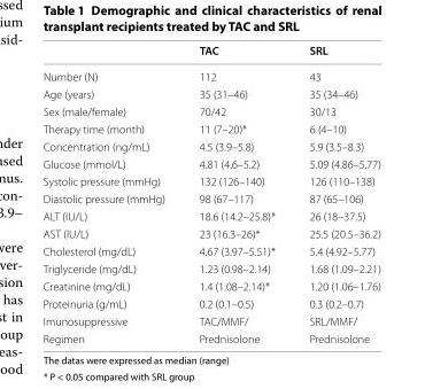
<table><thead><tr><td></td><td>TAC</td><td>SRL</td></tr></thead><tbody><tr><td>Number (N)</td><td>112</td><td>43</td></tr><tr><td>Age (years)</td><td>35 (31–46)</td><td>35 (34–46)</td></tr><tr><td>Sex (male/female)</td><td>70/42</td><td>30/13</td></tr><tr><td>Therapy time (month)</td><td>11 (7–20)*</td><td>6 (4–10)</td></tr><tr><td>Concentration (ng/mL)</td><td>4.5 (3.9–5.8)</td><td>5.9 (3.5–8.3)</td></tr><tr><td>Glucose (mmol/L)</td><td>4.81 (4.6–5.2)</td><td>5.09 (4.86–5.77)</td></tr><tr><td>Systolic pressure (mmHg)</td><td>132 (126–140)</td><td>126 (110–138)</td></tr><tr><td>Diastolic pressure (mmHg)</td><td>98 (67–117)</td><td>87 (65–106)</td></tr><tr><td>ALT (IU/L)</td><td>18.6 (14.2–25.8)*</td><td>26 (18–37.5)</td></tr><tr><td>AST (IU/L)</td><td>23 (16.3–26)*</td><td>25.5 (20.5–36.2)</td></tr><tr><td>Cholesterol (mg/dL)</td><td>4.67 (3.97–5.51)*</td><td>5.4 (4.92–5.77)</td></tr><tr><td>Triglyceride (mg/dL)</td><td>1.23 (0.98–2.14)</td><td>1.68 (1.09–2.21)</td></tr><tr><td>Creatinine (mg/dL)</td><td>1.4 (1.08–2.14)*</td><td>1.20 (1.06–1.76)</td></tr><tr><td>Proteinuria (g/mL)</td><td>0.2 (0.1–0.5)</td><td>0.3 (0.2–0.7)</td></tr><tr><td>Imunosuppressive</td><td>TAC/MMF/</td><td>SRL/MMF/</td></tr><tr><td>Regimen</td><td>Prednisolone</td><td>Prednisolone</td></tr></tbody></table>